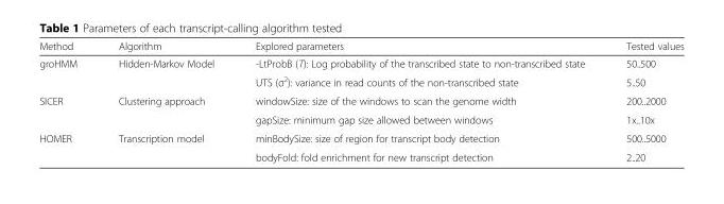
<table><thead><tr><td>Method</td><td>Algorithm</td><td>Explored parameters</td><td>Tested values</td></tr></thead><tbody><tr><td rowspan="2">groHMM</td><td rowspan="2">Hidden-Markov Model</td><td>-LtProbB (T): Log probability of the transcribed state to non-transcribed state</td><td>50..500</td></tr><tr><td>UTS (σ<sup>2</sup>): variance in read counts of the non-transcribed state</td><td>5..50</td></tr><tr><td rowspan="2">SICER</td><td rowspan="2">Clustering approach</td><td>windowSize: size of the windows to scan the genome width</td><td>200..2000</td></tr><tr><td>gapSize: minimum gap size allowed between windows</td><td>1x..10x</td></tr><tr><td rowspan="2">HOMER</td><td rowspan="2">Transcription model</td><td>minBodySize: size of region for transcript body detection</td><td>500..5000</td></tr><tr><td>bodyFold: fold enrichment for new transcript detection</td><td>2..20</td></tr></tbody></table>